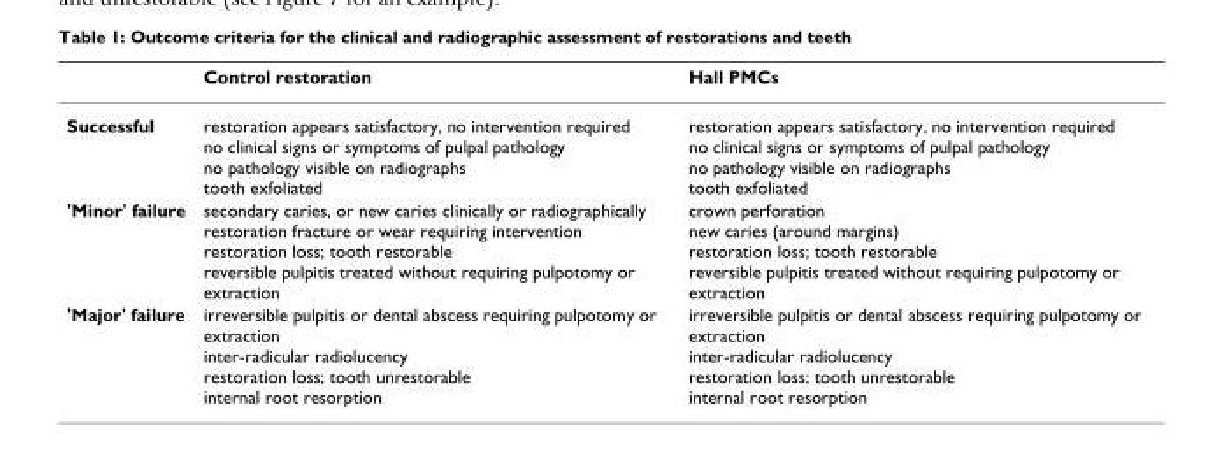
<table><thead><tr><td></td><td>Control restoration</td><td>Hall PMCs</td></tr></thead><tbody><tr><td>Successful</td><td>restoration appears satisfactory, no intervention required no clinical signs or symptoms of pulpal pathology no pathology visible on radiographs tooth exfoliated</td><td>restoration appears satisfactory, no intervention required no clinical signs or symptoms of pulpal pathology no pathology visible on radiographs tooth exfoliated</td></tr><tr><td>&#x27;Minor&#x27; failure</td><td>secondary caries, or new caries clinically or radiographically restoration fracture or wear requiring intervention restoration loss; tooth restorable reversible pulpitis treated without requiring pulpotomy or extraction</td><td>crown perforation new caries (around margins) restoration loss; tooth restorable reversible pulpitis treated without requiring pulpotomy or extraction</td></tr><tr><td>&#x27;Major&#x27; failure</td><td>irreversible pulpitis or dental abscess requiring pulpotomy or extraction inter-radicular radiolucency restoration loss; tooth unrestorable internal root resorption</td><td>irreversible pulpitis or dental abscess requiring pulpotomy or extraction inter-radicular radiolucency restoration loss; tooth unrestorable internal root resorption</td></tr></tbody></table>